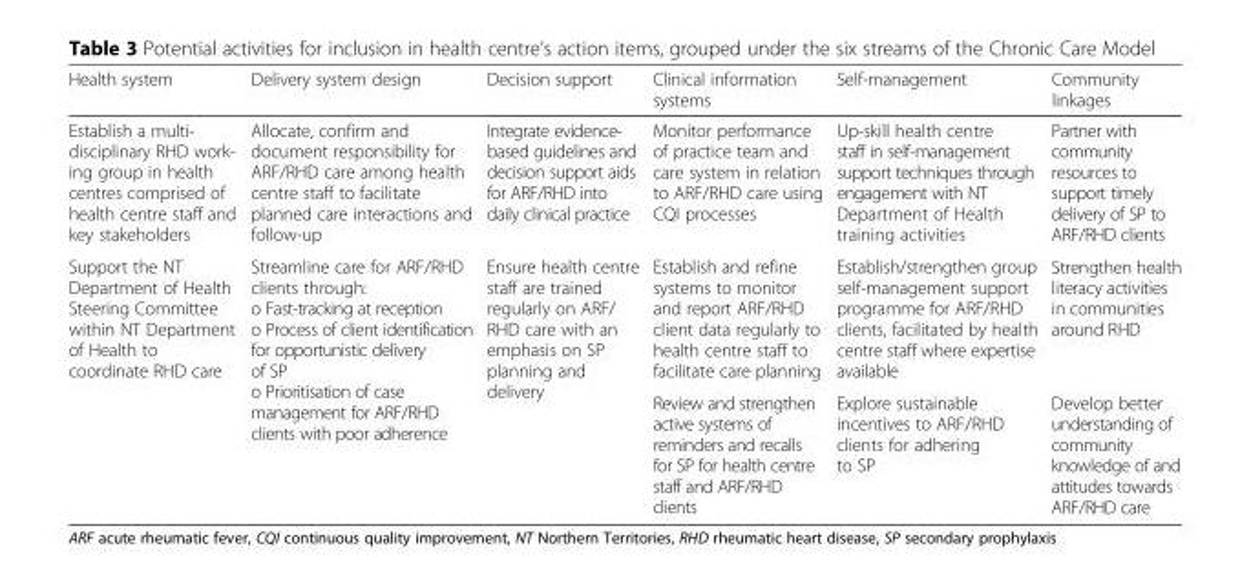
<table><thead><tr><td>Health system</td><td>Delivery system design</td><td>Decision support</td><td>Clinical information systems</td><td>Self-management</td><td>Community linkages</td></tr></thead><tbody><tr><td>Establish a multi- disciplinary RHD work- ing group in health centres comprised of health centre staff and key stakeholders</td><td>Allocate, confirm and document responsibility for ARF/RHD care among health centre staff to facilitate planned care interactions and follow-up</td><td>Integrate evidence- based guidelines and decision support aids for ARF/RHD into daily clinical practice</td><td>Monitor performance of practice team and care system in relation to ARF/RHD care using CQI processes</td><td>Up-skill health centre staff in self-management support techniques through engagement with NT Department of Health training activities</td><td>Partner with community resources to support timely delivery of SP to ARF/RHD clients</td></tr><tr><td rowspan="2">Support the NT Department of Health Steering Committee within NT Department of Health to coordinate RHD care</td><td rowspan="2">Streamline care for ARF/RHD clients through: o Fast-tracking at reception o Process of client identification for opportunistic delivery of SP o Prioritisation of case management for ARF/RHD clients with poor adherence</td><td rowspan="2">Ensure health centre staff are trained regularly on ARF/ RHD care with an emphasis on SP planning and delivery</td><td>Establish and refine systems to monitor and report ARF/RHD client data regularly to health centre staff to facilitate care planning</td><td>Establish/strengthen group self-management support programme for ARF/RHD clients, facilitated by health centre staff where expertise available</td><td>Strengthen health literacy activities in communities around RHD</td></tr><tr><td>Review and strengthen active systems of reminders and recalls for SP for health centre staff and ARF/RHD clients</td><td>Explore sustainable incentives to ARF/RHD clients for adhering to SP</td><td>Develop better understanding of community knowledge of and attitudes towards ARF/RHD care</td></tr></tbody></table>